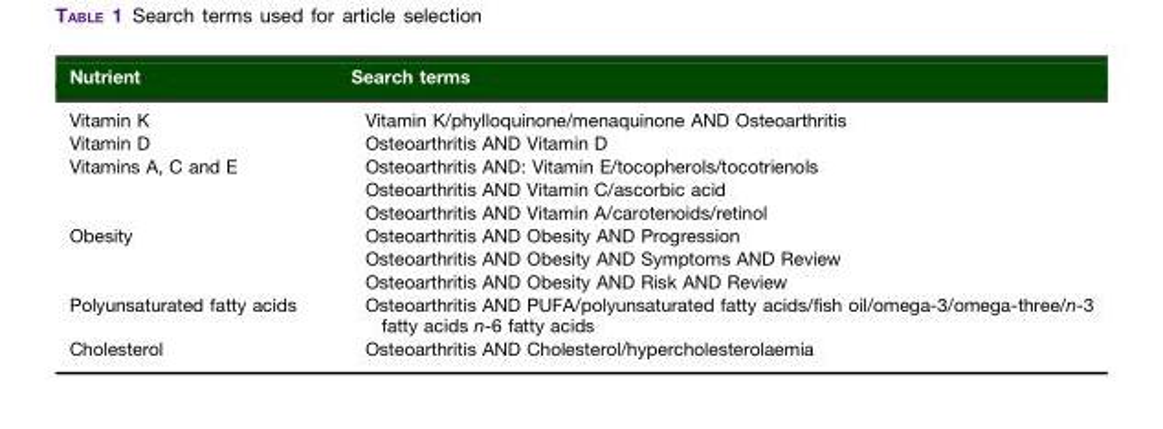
<table><thead><tr><td>Nutrient</td><td>Search terms</td></tr></thead><tbody><tr><td>Vitamin K</td><td>Vitamin K/phylloquinone/menaquinone AND Osteoarthritis</td></tr><tr><td>Vitamin D</td><td>Osteoarthritis AND Vitamin D</td></tr><tr><td rowspan="3">Vitamins A, C and E</td><td>Osteoarthritis AND: Vitamin E/tocopherols/tocotrienols</td></tr><tr><td>Osteoarthritis AND Vitamin C/ascorbic acid</td></tr><tr><td>Osteoarthritis AND Vitamin A/carotenoids/retinol</td></tr><tr><td rowspan="3">Obesity</td><td>Osteoarthritis AND Obesity AND Progression</td></tr><tr><td>Osteoarthritis AND Obesity AND Symptoms AND Review</td></tr><tr><td>Osteoarthritis AND Obesity AND Risk AND Review</td></tr><tr><td>Polyunsaturated fatty acids</td><td>Osteoarthritis AND PUFA/polyunsaturated fatty acids/fish oil/omega-3/omega-three/n-3 fatty acids n-6 fatty acids</td></tr><tr><td>Cholesterol</td><td>Osteoarthritis AND Cholesterol/hypercholesterolaemia</td></tr></tbody></table>